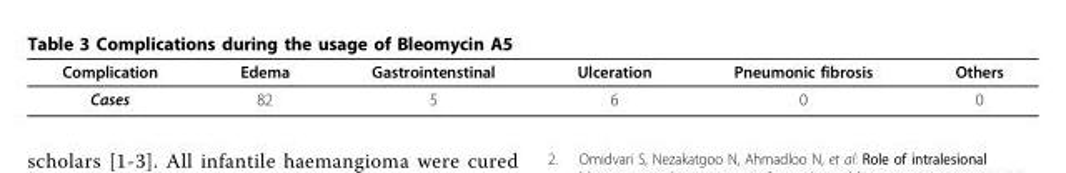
<table><thead><tr><td>Complication</td><td>Edema</td><td>Gastrointenstinal</td><td>Ulceration</td><td>Pneumonic fibrosis</td><td>Others</td></tr></thead><tbody><tr><td>Cases</td><td>82</td><td>5</td><td>6</td><td>0</td><td>0</td></tr></tbody></table>